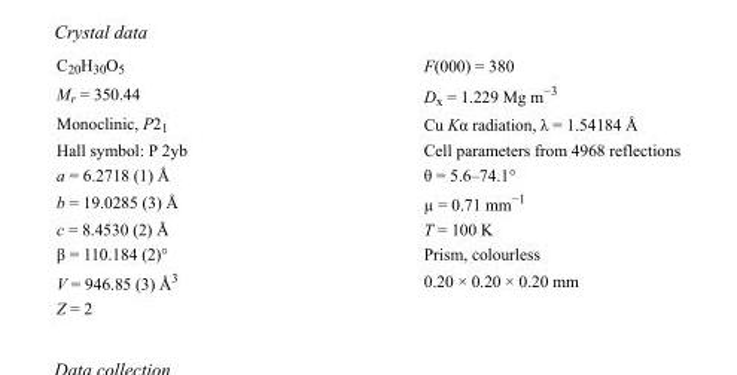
<table><tbody><tr><td>C<sub>20</sub>H<sub>30</sub>O<sub>5</sub></td><td>F(000) = 380</td></tr><tr><td>M<sub>r</sub> = 350.44</td><td>D<sub>x</sub> = 1.229 Mg m<sup>−3</sup></td></tr><tr><td>Monoclinic, P2<sub>1</sub></td><td>Cu Kα radiation, λ = 1.54184 Å</td></tr><tr><td>Hall symbol: P 2yb</td><td>Cell parameters from 4968 reflections</td></tr><tr><td>a = 6.2718 (1) Å</td><td>θ = 5.6–74.1°</td></tr><tr><td>b = 19.0285 (3) Å</td><td>µ = 0.71 mm<sup>−1</sup></td></tr><tr><td>c = 8.4530 (2) Å</td><td>T = 100 K</td></tr><tr><td>β = 110.184 (2)°</td><td>Prism, colourless</td></tr><tr><td>V = 946.85 (3) Å<sup>3</sup></td><td>0.20 × 0.20 × 0.20 mm</td></tr><tr><td>Z = 2</td><td></td></tr></tbody></table>